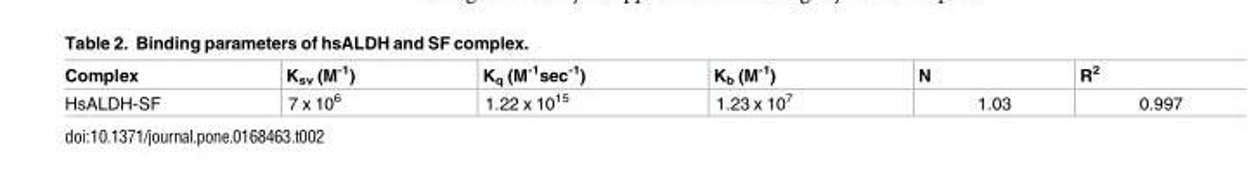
<table><thead><tr><td>Complex</td><td>K<sub>sv</sub> (M<sup>-1</sup>)</td><td>K<sub>q</sub> (M<sup>-1</sup>sec<sup>-1</sup>)</td><td>K<sub>b</sub> (M<sup>-1</sup>)</td><td>N</td><td>R<sup>2</sup></td></tr></thead><tbody><tr><td>HsALDH-SF</td><td>7 x 10<sup>6</sup></td><td>1.22 x 10<sup>15</sup></td><td>1.23 x 10<sup>7</sup></td><td>1.03</td><td>0.997</td></tr></tbody></table>